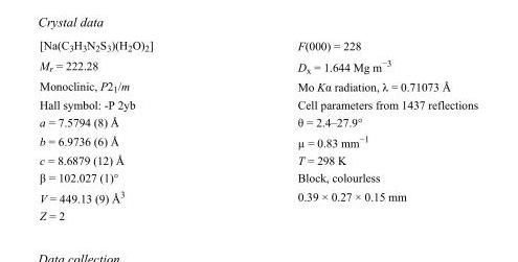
<table><tbody><tr><td>[Na(C<sub>3</sub>H<sub>3</sub>N<sub>2</sub>S<sub>3</sub>)(H<sub>2</sub>O)<sub>2</sub>]</td><td>F(000) = 228</td></tr><tr><td>M<sub>r</sub> = 222.28</td><td>D<sub>x</sub> = 1.644 Mg m<sup>−3</sup></td></tr><tr><td>Monoclinic, P2<sub>1</sub>/m</td><td>Mo Kα radiation, λ = 0.71073 Å</td></tr><tr><td>Hall symbol: -P 2yb</td><td>Cell parameters from 1437 reflections</td></tr><tr><td>a = 7.5794 (8) Å</td><td>θ = 2.4–27.9°</td></tr><tr><td>b = 6.9736 (6) Å</td><td>µ = 0.83 mm<sup>−1</sup></td></tr><tr><td>c = 8.6879 (12) Å</td><td>T = 298 K</td></tr><tr><td>β = 102.027 (1)°</td><td>Block, colourless</td></tr><tr><td>V = 449.13 (9) Å<sup>3</sup></td><td>0.39 × 0.27 × 0.15 mm</td></tr><tr><td>Z = 2</td><td></td></tr></tbody></table>